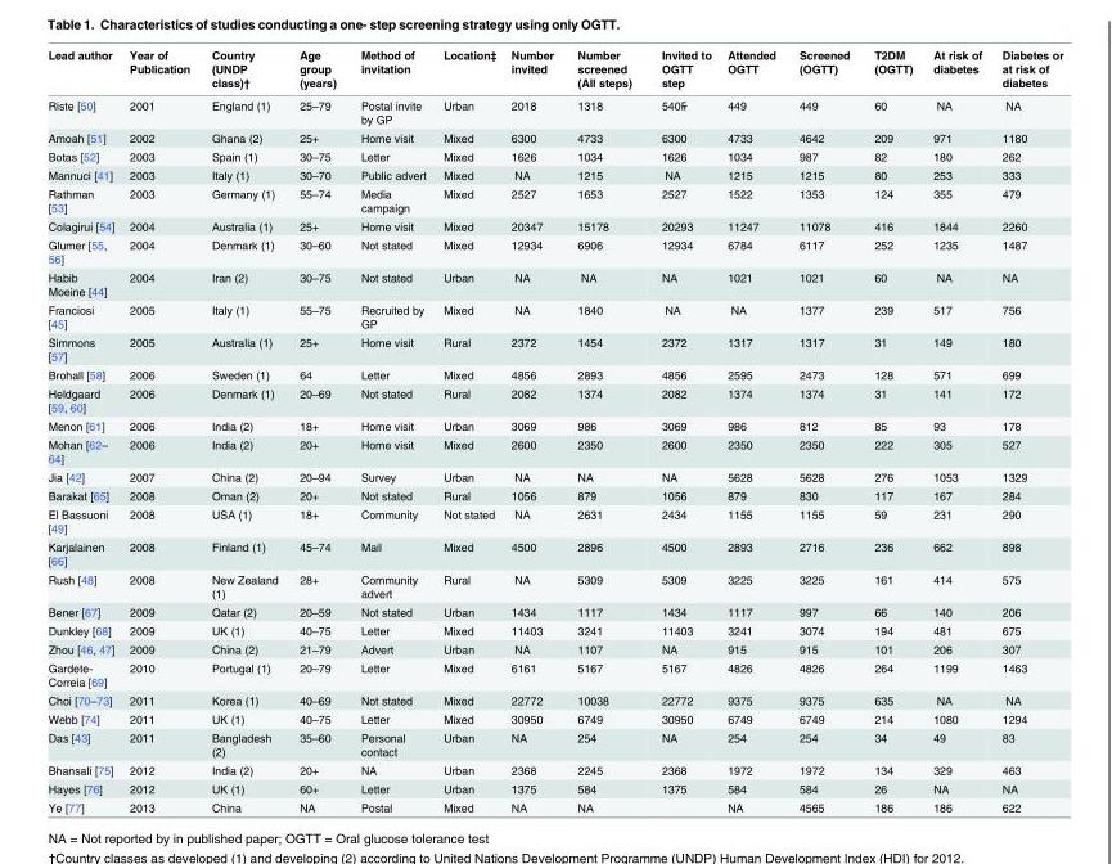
<table><thead><tr><td>Lead author</td><td>Year of Publication</td><td>Country (UNDP class)†</td><td>Age group (years)</td><td>Method of invitation</td><td>Location‡</td><td>Number invited</td><td>Number screened (All steps)</td><td>Invited to OGTT step</td><td>Attended OGTT</td><td>Screened (OGTT)</td><td>T2DM (OGTT)</td><td>At risk of diabetes</td><td>Diabetes or at risk of diabetes</td></tr></thead><tbody><tr><td>Riste [50]</td><td>2001</td><td>England (1)</td><td>25–79</td><td>Postal invite by GP</td><td>Urban</td><td>2018</td><td>1318</td><td>540₣</td><td>449</td><td>449</td><td>60</td><td>NA</td><td>NA</td></tr><tr><td>Amoah [51]</td><td>2002</td><td>Ghana (2)</td><td>25+</td><td>Home visit</td><td>Mixed</td><td>6300</td><td>4733</td><td>6300</td><td>4733</td><td>4642</td><td>209</td><td>971</td><td>1180</td></tr><tr><td>Botas [52]</td><td>2003</td><td>Spain (1)</td><td>30–75</td><td>Letter</td><td>Mixed</td><td>1626</td><td>1034</td><td>1626</td><td>1034</td><td>987</td><td>82</td><td>180</td><td>262</td></tr><tr><td>Mannuci [41]</td><td>2003</td><td>Italy (1)</td><td>30–70</td><td>Public advert</td><td>Mixed</td><td>NA</td><td>1215</td><td>NA</td><td>1215</td><td>1215</td><td>80</td><td>253</td><td>333</td></tr><tr><td>Rathman [53]</td><td>2003</td><td>Germany (1)</td><td>55–74</td><td>Media campaign</td><td>Mixed</td><td>2527</td><td>1653</td><td>2527</td><td>1522</td><td>1353</td><td>124</td><td>355</td><td>479</td></tr><tr><td>Colagirui [54]</td><td>2004</td><td>Australia (1)</td><td>25+</td><td>Home visit</td><td>Mixed</td><td>20347</td><td>15178</td><td>20293</td><td>11247</td><td>11078</td><td>416</td><td>1844</td><td>2260</td></tr><tr><td>Glumer [55, 56]</td><td>2004</td><td>Denmark (1)</td><td>30–60</td><td>Not stated</td><td>Mixed</td><td>12934</td><td>6906</td><td>12934</td><td>6784</td><td>6117</td><td>252</td><td>1235</td><td>1487</td></tr><tr><td>Habib Moeine [44]</td><td>2004</td><td>Iran (2)</td><td>30–75</td><td>Not stated</td><td>Urban</td><td>NA</td><td>NA</td><td>NA</td><td>1021</td><td>1021</td><td>60</td><td>NA</td><td>NA</td></tr><tr><td>Franciosi [45]</td><td>2005</td><td>Italy (1)</td><td>55–75</td><td>Recruited by GP</td><td>Mixed</td><td>NA</td><td>1840</td><td>NA</td><td>NA</td><td>1377</td><td>239</td><td>517</td><td>756</td></tr><tr><td>Simmons [57]</td><td>2005</td><td>Australia (1)</td><td>25+</td><td>Home visit</td><td>Rural</td><td>2372</td><td>1454</td><td>2372</td><td>1317</td><td>1317</td><td>31</td><td>149</td><td>180</td></tr><tr><td>Brohall [58]</td><td>2006</td><td>Sweden (1)</td><td>64</td><td>Letter</td><td>Mixed</td><td>4856</td><td>2893</td><td>4856</td><td>2595</td><td>2473</td><td>128</td><td>571</td><td>699</td></tr><tr><td>Heldgaard [59, 60]</td><td>2006</td><td>Denmark (1)</td><td>20–69</td><td>Not stated</td><td>Rural</td><td>2082</td><td>1374</td><td>2082</td><td>1374</td><td>1374</td><td>31</td><td>141</td><td>172</td></tr><tr><td>Menon [61]</td><td>2006</td><td>India (2)</td><td>18+</td><td>Home visit</td><td>Urban</td><td>3069</td><td>986</td><td>3069</td><td>986</td><td>812</td><td>85</td><td>93</td><td>178</td></tr><tr><td>Mohan [62– 64]</td><td>2006</td><td>India (2)</td><td>20+</td><td>Home visit</td><td>Mixed</td><td>2600</td><td>2350</td><td>2600</td><td>2350</td><td>2350</td><td>222</td><td>305</td><td>527</td></tr><tr><td>Jia [42]</td><td>2007</td><td>China (2)</td><td>20–94</td><td>Survey</td><td>Urban</td><td>NA</td><td>NA</td><td>NA</td><td>5628</td><td>5628</td><td>276</td><td>1053</td><td>1329</td></tr><tr><td>Barakat [65]</td><td>2008</td><td>Oman (2)</td><td>20+</td><td>Not stated</td><td>Rural</td><td>1056</td><td>879</td><td>1056</td><td>879</td><td>830</td><td>117</td><td>167</td><td>284</td></tr><tr><td>El Bassuoni [49]</td><td>2008</td><td>USA (1)</td><td>18+</td><td>Community</td><td>Not stated</td><td>NA</td><td>2631</td><td>2434</td><td>1155</td><td>1155</td><td>59</td><td>231</td><td>290</td></tr><tr><td>Karjalainen [66]</td><td>2008</td><td>Finland (1)</td><td>45–74</td><td>Mail</td><td>Mixed</td><td>4500</td><td>2896</td><td>4500</td><td>2893</td><td>2716</td><td>236</td><td>662</td><td>898</td></tr><tr><td>Rush [48]</td><td>2008</td><td>New Zealand (1)</td><td>28+</td><td>Community advert</td><td>Rural</td><td>NA</td><td>5309</td><td>5309</td><td>3225</td><td>3225</td><td>161</td><td>414</td><td>575</td></tr><tr><td>Bener [67]</td><td>2009</td><td>Qatar (2)</td><td>20–59</td><td>Not stated</td><td>Urban</td><td>1434</td><td>1117</td><td>1434</td><td>1117</td><td>997</td><td>66</td><td>140</td><td>206</td></tr><tr><td>Dunkley [68]</td><td>2009</td><td>UK (1)</td><td>40–75</td><td>Letter</td><td>Mixed</td><td>11403</td><td>3241</td><td>11403</td><td>3241</td><td>3074</td><td>194</td><td>481</td><td>675</td></tr><tr><td>Zhou [46, 47]</td><td>2009</td><td>China (2)</td><td>21–79</td><td>Advert</td><td>Urban</td><td>NA</td><td>1107</td><td>NA</td><td>915</td><td>915</td><td>101</td><td>206</td><td>307</td></tr><tr><td>Gardete- Correia [69]</td><td>2010</td><td>Portugal (1)</td><td>20–79</td><td>Letter</td><td>Mixed</td><td>6161</td><td>5167</td><td>5167</td><td>4826</td><td>4826</td><td>264</td><td>1199</td><td>1463</td></tr><tr><td>Choi [70–73]</td><td>2011</td><td>Korea (1)</td><td>40–69</td><td>Not stated</td><td>Mixed</td><td>22772</td><td>10038</td><td>22772</td><td>9375</td><td>9375</td><td>635</td><td>NA</td><td>NA</td></tr><tr><td>Webb [74]</td><td>2011</td><td>UK (1)</td><td>40–75</td><td>Letter</td><td>Mixed</td><td>30950</td><td>6749</td><td>30950</td><td>6749</td><td>6749</td><td>214</td><td>1080</td><td>1294</td></tr><tr><td>Das [43]</td><td>2011</td><td>Bangladesh (2)</td><td>35–60</td><td>Personal contact</td><td>Urban</td><td>NA</td><td>254</td><td>NA</td><td>254</td><td>254</td><td>34</td><td>49</td><td>83</td></tr><tr><td>Bhansali [75]</td><td>2012</td><td>India (2)</td><td>20+</td><td>NA</td><td>Urban</td><td>2368</td><td>2245</td><td>2368</td><td>1972</td><td>1972</td><td>134</td><td>329</td><td>463</td></tr><tr><td>Hayes [76]</td><td>2012</td><td>UK (1)</td><td>60+</td><td>Letter</td><td>Urban</td><td>1375</td><td>584</td><td>1375</td><td>584</td><td>584</td><td>26</td><td>NA</td><td>NA</td></tr><tr><td>Ye [77]</td><td>2013</td><td>China</td><td>NA</td><td>Postal</td><td>Mixed</td><td>NA</td><td>NA</td><td></td><td>NA</td><td>4565</td><td>186</td><td>186</td><td>622</td></tr></tbody></table>